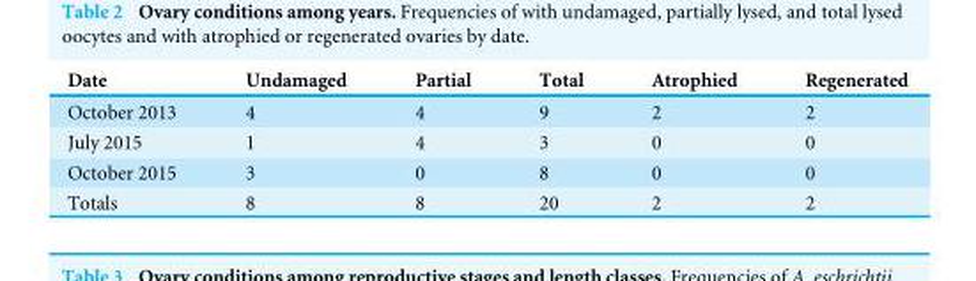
<table><thead><tr><td>Date</td><td>Undamaged</td><td>Partial</td><td>Total</td><td>Atrophied</td><td>Regenerated</td></tr></thead><tbody><tr><td>October 2013</td><td>4</td><td>4</td><td>9</td><td>2</td><td>2</td></tr><tr><td>July 2015</td><td>1</td><td>4</td><td>3</td><td>0</td><td>0</td></tr><tr><td>October 2015</td><td>3</td><td>0</td><td>8</td><td>0</td><td>0</td></tr><tr><td>Totals</td><td>8</td><td>8</td><td>20</td><td>2</td><td>2</td></tr></tbody></table>